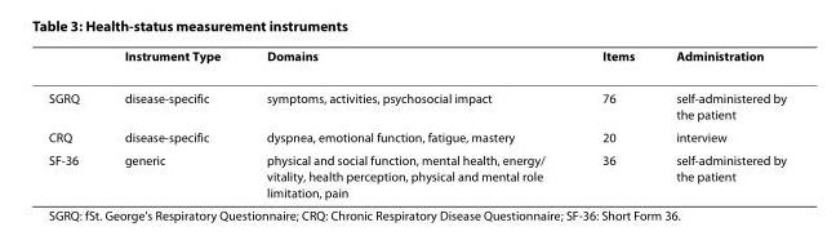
<table><thead><tr><td></td><td>Instrument Type</td><td>Domains</td><td>Items</td><td>Administration</td></tr></thead><tbody><tr><td>SGRQ</td><td>disease-specific</td><td>symptoms, activities, psychosocial impact</td><td>76</td><td>self-administered by the patient</td></tr><tr><td>CRQ</td><td>disease-specific</td><td>dyspnea, emotional function, fatigue, mastery</td><td>20</td><td>interview</td></tr><tr><td>SF-36</td><td>generic</td><td>physical and social function, mental health, energy/ vitality, health perception, physical and mental role limitation, pain</td><td>36</td><td>self-administered by the patient</td></tr></tbody></table>